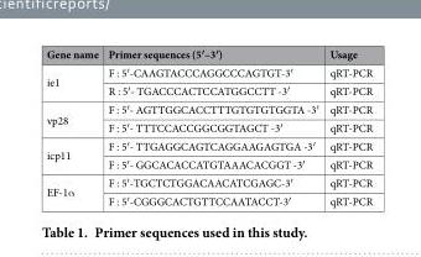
<table><thead><tr><td>Gene name</td><td>Primer sequences (5′–3′)</td><td>Usage</td></tr></thead><tbody><tr><td rowspan="2">ie1</td><td>F : 5′-CAAGTACCCAGGCCCAGTGT-3′</td><td>qRT-PCR</td></tr><tr><td>R : 5′- TGACCCACTCCATGGCCTT -3′</td><td>qRT-PCR</td></tr><tr><td rowspan="2">vp28</td><td>F : 5′- AGTTGGCACCTTTGTGTGTGGTA -3′</td><td>qRT-PCR</td></tr><tr><td>F : 5′- TTTCCACCGGCGGTAGCT -3′</td><td>qRT-PCR</td></tr><tr><td rowspan="2">icp11</td><td>F : 5′- TTGAGGCAGTCAGGAAGAGTGA -3′</td><td>qRT-PCR</td></tr><tr><td>F : 5′- GGCACACCATGTAAACACGGT -3′</td><td>qRT-PCR</td></tr><tr><td rowspan="2">EF-1α</td><td>F : 5′-TGCTCTGGACAACATCGAGC-3′</td><td>qRT-PCR</td></tr><tr><td>F : 5′-CGGGCACTGTTCCAATACCT-3′</td><td>qRT-PCR</td></tr></tbody></table>